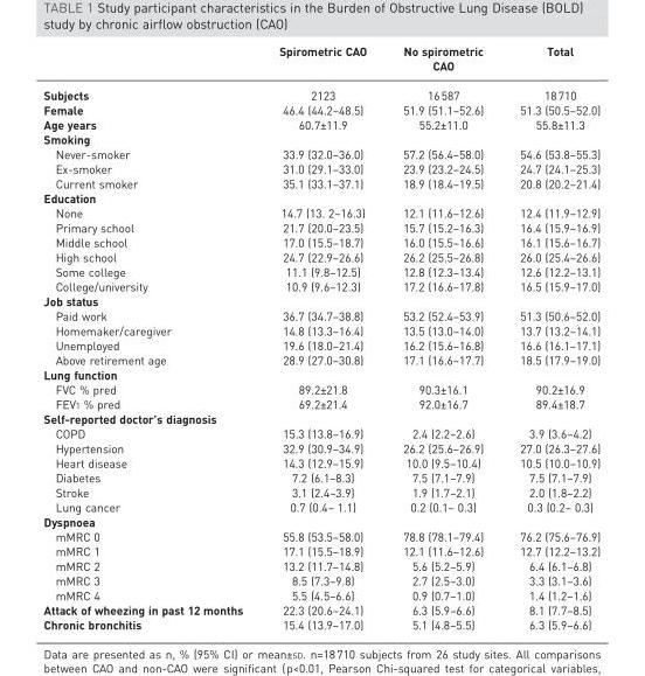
<table><thead><tr><td></td><td>Spirometric CAO</td><td>No spirometric CAO</td><td>Total</td></tr></thead><tbody><tr><td>Subjects</td><td>2123</td><td>16587</td><td>18710</td></tr><tr><td>Female</td><td>46.4 (44.2–48.5)</td><td>51.9 (51.1–52.6)</td><td>51.3 (50.5–52.0)</td></tr><tr><td>Age years</td><td>60.7±11.9</td><td>55.2±11.0</td><td>55.8±11.3</td></tr><tr><td colspan="4">Smoking</td></tr><tr><td>Never-smoker</td><td>33.9 (32.0–36.0)</td><td>57.2 (56.4–58.0)</td><td>54.6 (53.8–55.3)</td></tr><tr><td>Ex-smoker</td><td>31.0 (29.1–33.0)</td><td>23.9 (23.2–24.5)</td><td>24.7 (24.1–25.3)</td></tr><tr><td>Current smoker</td><td>35.1 (33.1–37.1)</td><td>18.9 (18.4–19.5)</td><td>20.8 (20.2–21.4)</td></tr><tr><td colspan="4">Education</td></tr><tr><td>None</td><td>14.7 (13. 2–16.3)</td><td>12.1 (11.6–12.6)</td><td>12.4 (11.9–12.9)</td></tr><tr><td>Primary school</td><td>21.7 (20.0–23.5)</td><td>15.7 (15.2–16.3)</td><td>16.4 (15.9–16.9)</td></tr><tr><td>Middle school</td><td>17.0 (15.5–18.7)</td><td>16.0 (15.5–16.6)</td><td>16.1 (15.6–16.7)</td></tr><tr><td>High school</td><td>24.7 (22.9–26.6)</td><td>26.2 (25.5–26.8)</td><td>26.0 (25.4–26.6)</td></tr><tr><td>Some college</td><td>11.1 (9.8–12.5)</td><td>12.8 (12.3–13.4)</td><td>12.6 (12.2–13.1)</td></tr><tr><td>College/university</td><td>10.9 (9.6–12.3)</td><td>17.2 (16.6–17.8)</td><td>16.5 (15.9–17.0)</td></tr><tr><td colspan="4">Job status</td></tr><tr><td>Paid work</td><td>36.7 (34.7–38.8)</td><td>53.2 (52.4–53.9)</td><td>51.3 (50.6–52.0)</td></tr><tr><td>Homemaker/caregiver</td><td>14.8 (13.3–16.4)</td><td>13.5 (13.0–14.0)</td><td>13.7 (13.2–14.1)</td></tr><tr><td>Unemployed</td><td>19.6 (18.0–21.4)</td><td>16.2 (15.6–16.8)</td><td>16.6 (16.1–17.1)</td></tr><tr><td>Above retirement age</td><td>28.9 (27.0–30.8)</td><td>17.1 (16.6–17.7)</td><td>18.5 (17.9–19.0)</td></tr><tr><td colspan="4">Lung function</td></tr><tr><td>FVC % pred</td><td>89.2±21.8</td><td>90.3±16.1</td><td>90.2±16.9</td></tr><tr><td>FEV<sub>1</sub> % pred</td><td>69.2±21.4</td><td>92.0±16.7</td><td>89.4±18.7</td></tr><tr><td colspan="4">Self-reported doctor’s diagnosis</td></tr><tr><td>COPD</td><td>15.3 (13.8–16.9)</td><td>2.4 (2.2–2.6)</td><td>3.9 (3.6–4.2)</td></tr><tr><td>Hypertension</td><td>32.9 (30.9–34.9)</td><td>26.2 (25.6–26.9)</td><td>27.0 (26.3–27.6)</td></tr><tr><td>Heart disease</td><td>14.3 (12.9–15.9)</td><td>10.0 (9.5–10.4)</td><td>10.5 (10.0–10.9)</td></tr><tr><td>Diabetes</td><td>7.2 (6.1–8.3)</td><td>7.5 (7.1–7.9)</td><td>7.5 (7.1–7.9)</td></tr><tr><td>Stroke</td><td>3.1 (2.4–3.9)</td><td>1.9 (1.7–2.1)</td><td>2.0 (1.8–2.2)</td></tr><tr><td>Lung cancer</td><td>0.7 (0.4– 1.1)</td><td>0.2 (0.1– 0.3)</td><td>0.3 (0.2– 0.3)</td></tr><tr><td colspan="4">Dyspnoea</td></tr><tr><td>mMRC 0</td><td>55.8 (53.5–58.0)</td><td>78.8 (78.1–79.4)</td><td>76.2 (75.6–76.9)</td></tr><tr><td>mMRC 1</td><td>17.1 (15.5–18.9)</td><td>12.1 (11.6–12.6)</td><td>12.7 (12.2–13.2)</td></tr><tr><td>mMRC 2</td><td>13.2 (11.7–14.8)</td><td>5.6 (5.2–5.9)</td><td>6.4 (6.1–6.8)</td></tr><tr><td>mMRC 3</td><td>8.5 (7.3–9.8)</td><td>2.7 (2.5–3.0)</td><td>3.3 (3.1–3.6)</td></tr><tr><td>mMRC 4</td><td>5.5 (4.5–6.6)</td><td>0.9 (0.7–1.0)</td><td>1.4 (1.2–1.6)</td></tr><tr><td>Attack of wheezing in past 12 months</td><td>22.3 (20.6–24.1)</td><td>6.3 (5.9–6.6)</td><td>8.1 (7.7–8.5)</td></tr><tr><td>Chronic bronchitis</td><td>15.4 (13.9–17.0)</td><td>5.1 (4.8–5.5)</td><td>6.3 (5.9–6.6)</td></tr></tbody></table>